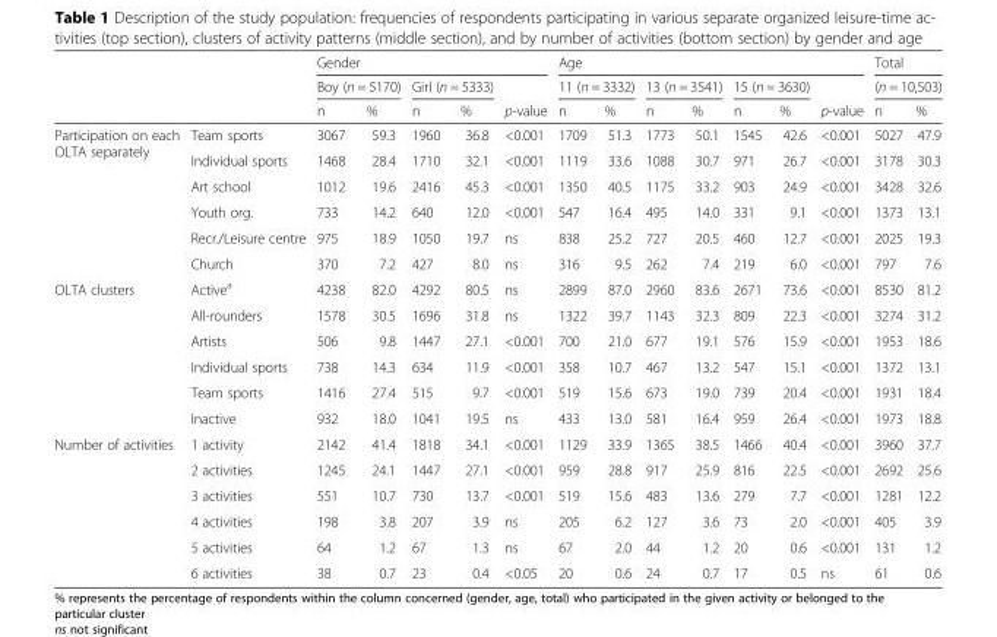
<table><thead><tr><td rowspan="3"></td><td rowspan="3"></td><td colspan="5">Gender</td><td colspan="7">Age</td><td rowspan="2" colspan="2">Total (n = 10,503)</td></tr><tr><td colspan="2">Boy (n = 5170)</td><td colspan="2">Girl (n = 5333)</td><td rowspan="2">p-value</td><td colspan="2">11 (n = 3332)</td><td colspan="2">13 (n = 3541)</td><td colspan="2">15 (n = 3630)</td><td rowspan="2">p-value</td></tr><tr><td>n</td><td>%</td><td>n</td><td>%</td><td>n</td><td>%</td><td>n</td><td>%</td><td>n</td><td>%</td><td>n</td><td>%</td></tr></thead><tbody><tr><td rowspan="6">Participation on each OLTA separately</td><td>Team sports</td><td>3067</td><td>59.3</td><td>1960</td><td>36.8</td><td>&lt;0.001</td><td>1709</td><td>51.3</td><td>1773</td><td>50.1</td><td>1545</td><td>42.6</td><td>&lt;0.001</td><td>5027</td><td>47.9</td></tr><tr><td>Individual sports</td><td>1468</td><td>28.4</td><td>1710</td><td>32.1</td><td>&lt;0.001</td><td>1119</td><td>33.6</td><td>1088</td><td>30.7</td><td>971</td><td>26.7</td><td>&lt;0.001</td><td>3178</td><td>30.3</td></tr><tr><td>Art school</td><td>1012</td><td>19.6</td><td>2416</td><td>45.3</td><td>&lt;0.001</td><td>1350</td><td>40.5</td><td>1175</td><td>33.2</td><td>903</td><td>24.9</td><td>&lt;0.001</td><td>3428</td><td>32.6</td></tr><tr><td>Youth org.</td><td>733</td><td>14.2</td><td>640</td><td>12.0</td><td>&lt;0.001</td><td>547</td><td>16.4</td><td>495</td><td>14.0</td><td>331</td><td>9.1</td><td>&lt;0.001</td><td>1373</td><td>13.1</td></tr><tr><td>Recr./Leisure centre</td><td>975</td><td>18.9</td><td>1050</td><td>19.7</td><td>ns</td><td>838</td><td>25.2</td><td>727</td><td>20.5</td><td>460</td><td>12.7</td><td>&lt;0.001</td><td>2025</td><td>19.3</td></tr><tr><td>Church</td><td>370</td><td>7.2</td><td>427</td><td>8.0</td><td>ns</td><td>316</td><td>9.5</td><td>262</td><td>7.4</td><td>219</td><td>6.0</td><td>&lt;0.001</td><td>797</td><td>7.6</td></tr><tr><td rowspan="6">OLTA clusters</td><td>Active<sup>a</sup></td><td>4238</td><td>82.0</td><td>4292</td><td>80.5</td><td>ns</td><td>2899</td><td>87.0</td><td>2960</td><td>83.6</td><td>2671</td><td>73.6</td><td>&lt;0.001</td><td>8530</td><td>81.2</td></tr><tr><td>All-rounders</td><td>1578</td><td>30.5</td><td>1696</td><td>31.8</td><td>ns</td><td>1322</td><td>39.7</td><td>1143</td><td>32.3</td><td>809</td><td>22.3</td><td>&lt;0.001</td><td>3274</td><td>31.2</td></tr><tr><td>Artists</td><td>506</td><td>9.8</td><td>1447</td><td>27.1</td><td>&lt;0.001</td><td>700</td><td>21.0</td><td>677</td><td>19.1</td><td>576</td><td>15.9</td><td>&lt;0.001</td><td>1953</td><td>18.6</td></tr><tr><td>Individual sports</td><td>738</td><td>14.3</td><td>634</td><td>11.9</td><td>&lt;0.001</td><td>358</td><td>10.7</td><td>467</td><td>13.2</td><td>547</td><td>15.1</td><td>&lt;0.001</td><td>1372</td><td>13.1</td></tr><tr><td>Team sports</td><td>1416</td><td>27.4</td><td>515</td><td>9.7</td><td>&lt;0.001</td><td>519</td><td>15.6</td><td>673</td><td>19.0</td><td>739</td><td>20.4</td><td>&lt;0.001</td><td>1931</td><td>18.4</td></tr><tr><td>Inactive</td><td>932</td><td>18.0</td><td>1041</td><td>19.5</td><td>ns</td><td>433</td><td>13.0</td><td>581</td><td>16.4</td><td>959</td><td>26.4</td><td>&lt;0.001</td><td>1973</td><td>18.8</td></tr><tr><td rowspan="6">Number of activities</td><td>1 activity</td><td>2142</td><td>41.4</td><td>1818</td><td>34.1</td><td>&lt;0.001</td><td>1129</td><td>33.9</td><td>1365</td><td>38.5</td><td>1466</td><td>40.4</td><td>&lt;0.001</td><td>3960</td><td>37.7</td></tr><tr><td>2 activities</td><td>1245</td><td>24.1</td><td>1447</td><td>27.1</td><td>&lt;0.001</td><td>959</td><td>28.8</td><td>917</td><td>25.9</td><td>816</td><td>22.5</td><td>&lt;0.001</td><td>2692</td><td>25.6</td></tr><tr><td>3 activities</td><td>551</td><td>10.7</td><td>730</td><td>13.7</td><td>&lt;0.001</td><td>519</td><td>15.6</td><td>483</td><td>13.6</td><td>279</td><td>7.7</td><td>&lt;0.001</td><td>1281</td><td>12.2</td></tr><tr><td>4 activities</td><td>198</td><td>3.8</td><td>207</td><td>3.9</td><td>ns</td><td>205</td><td>6.2</td><td>127</td><td>3.6</td><td>73</td><td>2.0</td><td>&lt;0.001</td><td>405</td><td>3.9</td></tr><tr><td>5 activities</td><td>64</td><td>1.2</td><td>67</td><td>1.3</td><td>ns</td><td>67</td><td>2.0</td><td>44</td><td>1.2</td><td>20</td><td>0.6</td><td>&lt;0.001</td><td>131</td><td>1.2</td></tr><tr><td>6 activities</td><td>38</td><td>0.7</td><td>23</td><td>0.4</td><td>&lt;0.05</td><td>20</td><td>0.6</td><td>24</td><td>0.7</td><td>17</td><td>0.5</td><td>ns</td><td>61</td><td>0.6</td></tr></tbody></table>